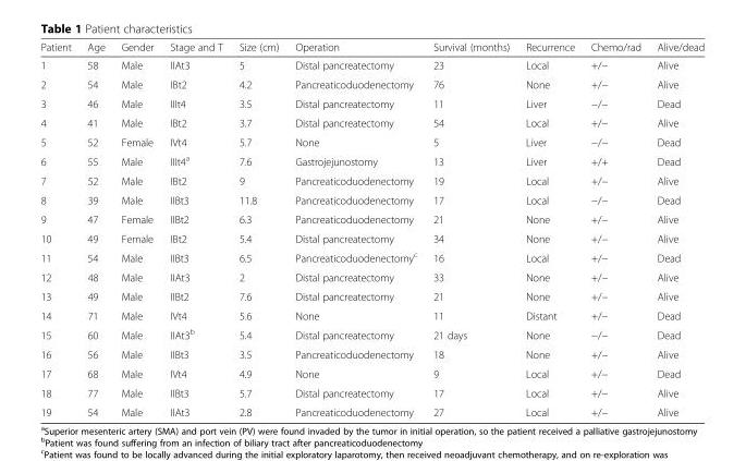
<table><thead><tr><td>Patient</td><td>Age</td><td>Gender</td><td>Stage and T</td><td>Size (cm)</td><td>Operation</td><td>Survival (months)</td><td>Recurrence</td><td>Chemo/rad</td><td>Alive/dead</td></tr></thead><tbody><tr><td>1</td><td>58</td><td>Male</td><td>IIAt3</td><td>5</td><td>Distal pancreatectomy</td><td>23</td><td>Local</td><td>+/−</td><td>Alive</td></tr><tr><td>2</td><td>54</td><td>Male</td><td>IBt2</td><td>4.2</td><td>Pancreaticoduodenectomy</td><td>76</td><td>None</td><td>+/−</td><td>Alive</td></tr><tr><td>3</td><td>46</td><td>Male</td><td>IIIt4</td><td>3.5</td><td>Distal pancreatectomy</td><td>11</td><td>Liver</td><td>−/−</td><td>Dead</td></tr><tr><td>4</td><td>41</td><td>Male</td><td>IBt2</td><td>3.7</td><td>Distal pancreatectomy</td><td>54</td><td>Local</td><td>+/−</td><td>Alive</td></tr><tr><td>5</td><td>52</td><td>Female</td><td>IVt4</td><td>5.7</td><td>None</td><td>5</td><td>Liver</td><td>−/−</td><td>Dead</td></tr><tr><td>6</td><td>55</td><td>Male</td><td>IIIt4<sup>a</sup></td><td>7.6</td><td>Gastrojejunostomy</td><td>13</td><td>Liver</td><td>+/+</td><td>Dead</td></tr><tr><td>7</td><td>52</td><td>Male</td><td>IBt2</td><td>9</td><td>Pancreaticoduodenectomy</td><td>19</td><td>Local</td><td>+/−</td><td>Alive</td></tr><tr><td>8</td><td>39</td><td>Male</td><td>IIBt3</td><td>11.8</td><td>Pancreaticoduodenectomy</td><td>17</td><td>Local</td><td>−/−</td><td>Dead</td></tr><tr><td>9</td><td>47</td><td>Female</td><td>IIBt2</td><td>6.3</td><td>Pancreaticoduodenectomy</td><td>21</td><td>None</td><td>+/−</td><td>Alive</td></tr><tr><td>10</td><td>49</td><td>Female</td><td>IBt2</td><td>5.4</td><td>Distal pancreatectomy</td><td>34</td><td>None</td><td>+/−</td><td>Alive</td></tr><tr><td>11</td><td>54</td><td>Male</td><td>IIBt3</td><td>6.5</td><td>Pancreaticoduodenectomy<sup>c</sup></td><td>16</td><td>Local</td><td>+/−</td><td>Dead</td></tr><tr><td>12</td><td>48</td><td>Male</td><td>IIAt3</td><td>2</td><td>Distal pancreatectomy</td><td>33</td><td>None</td><td>+/−</td><td>Alive</td></tr><tr><td>13</td><td>49</td><td>Male</td><td>IIBt2</td><td>7.6</td><td>Distal pancreatectomy</td><td>21</td><td>None</td><td>+/−</td><td>Alive</td></tr><tr><td>14</td><td>71</td><td>Male</td><td>IVt4</td><td>5.6</td><td>None</td><td>11</td><td>Distant</td><td>+/−</td><td>Dead</td></tr><tr><td>15</td><td>60</td><td>Male</td><td>IIAt3<sup>b</sup></td><td>5.4</td><td>Distal pancreatectomy</td><td>21 days</td><td>None</td><td>−/−</td><td>Dead</td></tr><tr><td>16</td><td>56</td><td>Male</td><td>IIBt3</td><td>3.5</td><td>Pancreaticoduodenectomy</td><td>18</td><td>None</td><td>+/−</td><td>Alive</td></tr><tr><td>17</td><td>68</td><td>Male</td><td>IVt4</td><td>4.9</td><td>None</td><td>9</td><td>Local</td><td>+/−</td><td>Dead</td></tr><tr><td>18</td><td>77</td><td>Male</td><td>IIBt3</td><td>5.7</td><td>Distal pancreatectomy</td><td>17</td><td>Local</td><td>+/−</td><td>Alive</td></tr><tr><td>19</td><td>54</td><td>Male</td><td>IIAt3</td><td>2.8</td><td>Pancreaticoduodenectomy</td><td>27</td><td>Local</td><td>+/−</td><td>Alive</td></tr></tbody></table>